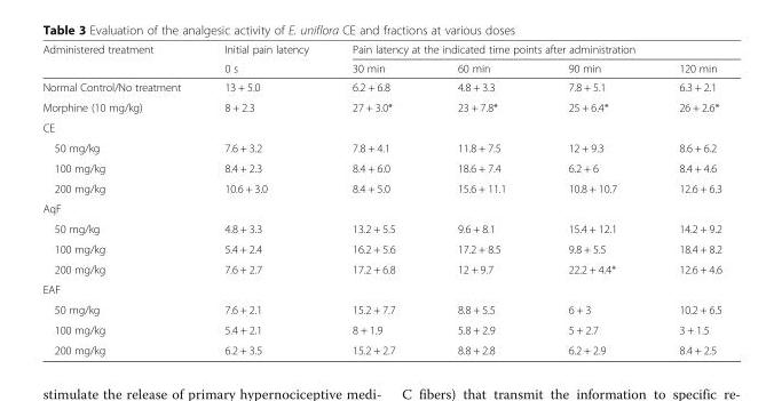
<table><thead><tr><td rowspan="2">Administered treatment</td><td rowspan="2">Initial pain latency 0 s</td><td colspan="4">Pain latency at the indicated time points after administration</td></tr><tr><td>30 min</td><td>60 min</td><td>90 min</td><td>120 min</td></tr></thead><tbody><tr><td>Normal Control/No treatment</td><td>13 + 5.0</td><td>6.2 + 6.8</td><td>4.8 + 3.3</td><td>7.8 + 5.1</td><td>6.3 + 2.1</td></tr><tr><td>Morphine (10 mg/kg)</td><td>8 + 2.3</td><td>27 + 3.0*</td><td>23 + 7.8*</td><td>25 + 6.4*</td><td>26 + 2.6*</td></tr><tr><td colspan="6">CE</td></tr><tr><td>50 mg/kg</td><td>7.6 + 3.2</td><td>7.8 + 4.1</td><td>11.8 + 7.5</td><td>12 + 9.3</td><td>8.6 + 6.2</td></tr><tr><td>100 mg/kg</td><td>8.4 + 2.3</td><td>8.4 + 6.0</td><td>18.6 + 7.4</td><td>6.2 + 6</td><td>8.4 + 4.6</td></tr><tr><td>200 mg/kg</td><td>10.6 + 3.0</td><td>8.4 + 5.0</td><td>15.6 + 11.1</td><td>10.8 + 10.7</td><td>12.6 + 6.3</td></tr><tr><td colspan="6">AqF</td></tr><tr><td>50 mg/kg</td><td>4.8 + 3.3</td><td>13.2 + 5.5</td><td>9.6 + 8.1</td><td>15.4 + 12.1</td><td>14.2 + 9.2</td></tr><tr><td>100 mg/kg</td><td>5.4 + 2.4</td><td>16.2 + 5.6</td><td>17.2 + 8.5</td><td>9.8 + 5.5</td><td>18.4 + 8.2</td></tr><tr><td>200 mg/kg</td><td>7.6 + 2.7</td><td>17.2 + 6.8</td><td>12 + 9.7</td><td>22.2 + 4.4*</td><td>12.6 + 4.6</td></tr><tr><td colspan="6">EAF</td></tr><tr><td>50 mg/kg</td><td>7.6 + 2.1</td><td>15.2 + 7.7</td><td>8.8 + 5.5</td><td>6 + 3</td><td>10.2 + 6.5</td></tr><tr><td>100 mg/kg</td><td>5.4 + 2.1</td><td>8 + 1.9</td><td>5.8 + 2.9</td><td>5 + 2.7</td><td>3 + 1.5</td></tr><tr><td>200 mg/kg</td><td>6.2 + 3.5</td><td>15.2 + 2.7</td><td>8.8 + 2.8</td><td>6.2 + 2.9</td><td>8.4 + 2.5</td></tr></tbody></table>